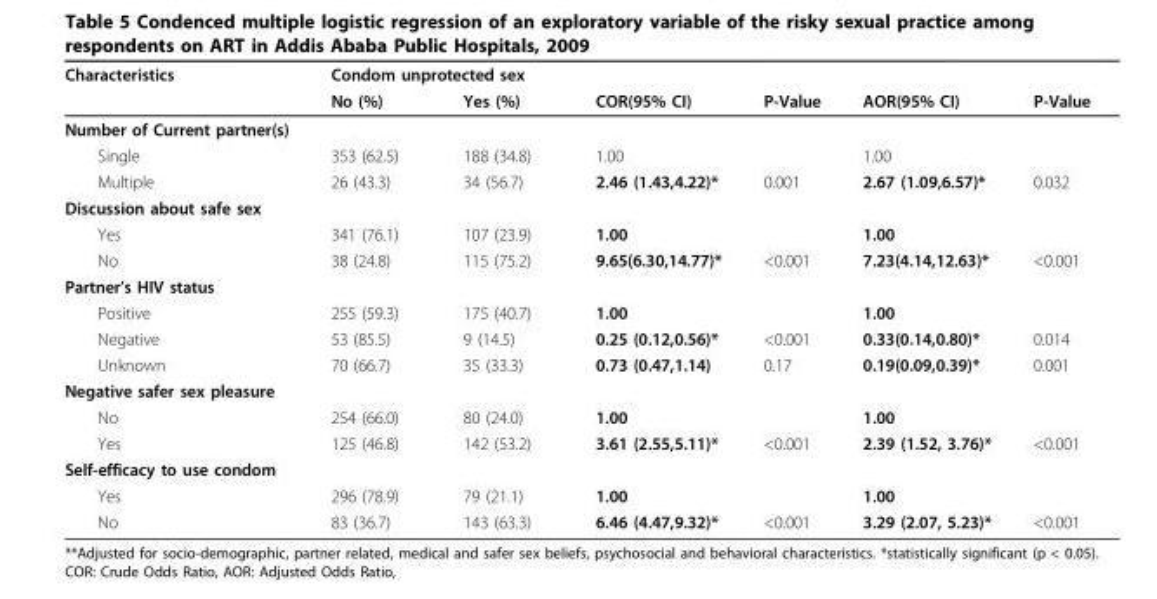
<table><thead><tr><td rowspan="2">Characteristics</td><td colspan="2">Condom unprotected sex</td><td rowspan="2">COR(95% CI)</td><td rowspan="2">P-Value</td><td rowspan="2">AOR(95% CI)</td><td rowspan="2">P-Value</td></tr><tr><td>No (%)</td><td>Yes (%)</td></tr></thead><tbody><tr><td colspan="7">Number of Current partner(s)</td></tr><tr><td>Single</td><td>353 (62.5)</td><td>188 (34.8)</td><td>1.00</td><td></td><td>1.00</td><td></td></tr><tr><td>Multiple</td><td>26 (43.3)</td><td>34 (56.7)</td><td>2.46 (1.43,4.22)*</td><td>0.001</td><td>2.67 (1.09,6.57)*</td><td>0.032</td></tr><tr><td colspan="7">Discussion about safe sex</td></tr><tr><td>Yes</td><td>341 (76.1)</td><td>107 (23.9)</td><td>1.00</td><td></td><td>1.00</td><td></td></tr><tr><td>No</td><td>38 (24.8)</td><td>115 (75.2)</td><td>9.65(6.30,14.77)*</td><td>&lt;0.001</td><td>7.23(4.14,12.63)*</td><td>&lt;0.001</td></tr><tr><td colspan="7">Partner’s HIV status</td></tr><tr><td>Positive</td><td>255 (59.3)</td><td>175 (40.7)</td><td>1.00</td><td></td><td>1.00</td><td></td></tr><tr><td>Negative</td><td>53 (85.5)</td><td>9 (14.5)</td><td>0.25 (0.12,0.56)*</td><td>&lt;0.001</td><td>0.33(0.14,0.80)*</td><td>0.014</td></tr><tr><td>Unknown</td><td>70 (66.7)</td><td>35 (33.3)</td><td>0.73 (0.47,1.14)</td><td>0.17</td><td>0.19(0.09,0.39)*</td><td>0.001</td></tr><tr><td colspan="7">Negative safer sex pleasure</td></tr><tr><td>No</td><td>254 (66.0)</td><td>80 (24.0)</td><td>1.00</td><td></td><td>1.00</td><td></td></tr><tr><td>Yes</td><td>125 (46.8)</td><td>142 (53.2)</td><td>3.61 (2.55,5.11)*</td><td>&lt;0.001</td><td>2.39 (1.52, 3.76)*</td><td>&lt;0.001</td></tr><tr><td colspan="7">Self-efficacy to use condom</td></tr><tr><td>Yes</td><td>296 (78.9)</td><td>79 (21.1)</td><td>1.00</td><td></td><td>1.00</td><td></td></tr><tr><td>No</td><td>83 (36.7)</td><td>143 (63.3)</td><td>6.46 (4.47,9.32)*</td><td>&lt;0.001</td><td>3.29 (2.07, 5.23)*</td><td>&lt;0.001</td></tr></tbody></table>